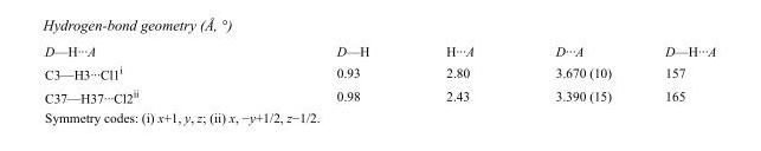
<table><tbody><tr><td>D—H···A</td><td>D—H</td><td>H···A</td><td>D···A</td><td>D—H···A</td></tr><tr><td>C3—H3···Cl1<sup>i</sup></td><td>0.93</td><td>2.80</td><td>3.670 (10)</td><td>157</td></tr><tr><td>C37—H37···Cl2<sup>ii</sup></td><td>0.98</td><td>2.43</td><td>3.390 (15)</td><td>165</td></tr></tbody></table>